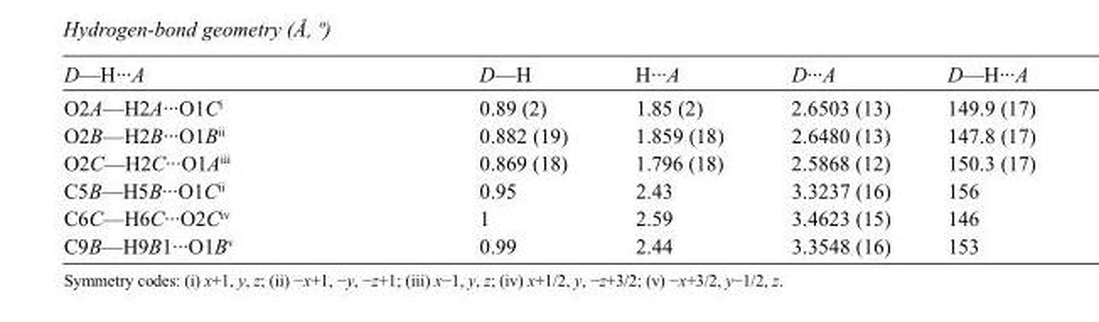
<table><tbody><tr><td>D—H···A</td><td>D—H</td><td>H···A</td><td>D···A</td><td>D—H···A</td></tr><tr><td>O2A—H2A···O1C<sup>i</sup></td><td>0.89 (2)</td><td>1.85 (2)</td><td>2.6503 (13)</td><td>149.9 (17)</td></tr><tr><td>O2B—H2B···O1B<sup>ii</sup></td><td>0.882 (19)</td><td>1.859 (18)</td><td>2.6480 (13)</td><td>147.8 (17)</td></tr><tr><td>O2C—H2C···O1A<sup>iii</sup></td><td>0.869 (18)</td><td>1.796 (18)</td><td>2.5868 (12)</td><td>150.3 (17)</td></tr><tr><td>C5B—H5B···O1C<sup>ii</sup></td><td>0.95</td><td>2.43</td><td>3.3237 (16)</td><td>156</td></tr><tr><td>C6C—H6C···O2C<sup>iv</sup></td><td>1</td><td>2.59</td><td>3.4623 (15)</td><td>146</td></tr><tr><td>C9B—H9B1···O1B<sup>v</sup></td><td>0.99</td><td>2.44</td><td>3.3548 (16)</td><td>153</td></tr></tbody></table>